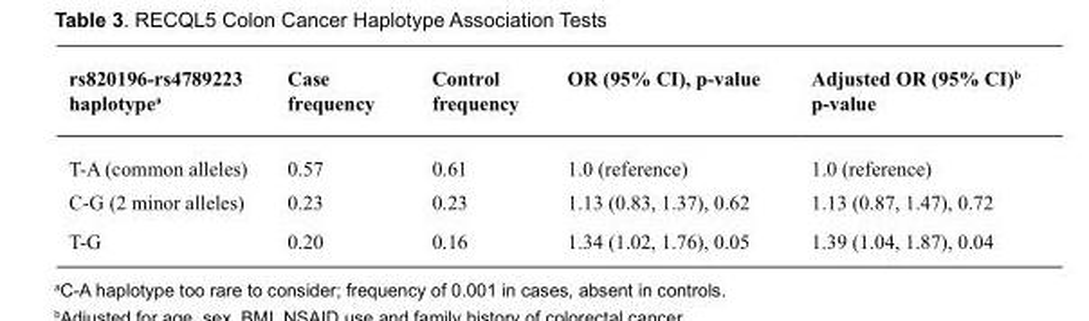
<table><thead><tr><td>rs820196-rs4789223 haplotype<sup>a</sup></td><td>Case frequency</td><td>Control frequency</td><td>OR (95% CI), p-value</td><td>Adjusted OR (95% CI)b p-value</td></tr></thead><tbody><tr><td>T-A (common alleles)</td><td>0.57</td><td>0.61</td><td>1.0 (reference)</td><td>1.0 (reference)</td></tr><tr><td>C-G (2 minor alleles)</td><td>0.23</td><td>0.23</td><td>1.13 (0.83, 1.37), 0.62</td><td>1.13 (0.87, 1.47), 0.72</td></tr><tr><td>T-G</td><td>0.20</td><td>0.16</td><td>1.34 (1.02, 1.76), 0.05</td><td>1.39 (1.04, 1.87), 0.04</td></tr></tbody></table>